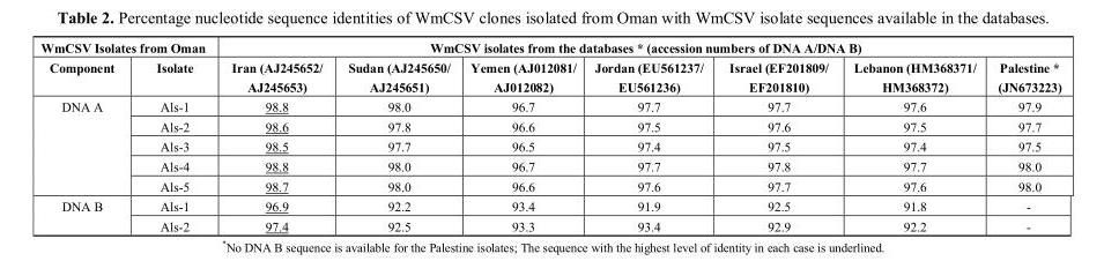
<table><thead><tr><td colspan="2">WmCSV Isolates from Oman</td><td colspan="7">WmCSV isolates from the databases * (accession numbers of DNA A/DNA B)</td></tr><tr><td>Component</td><td>Isolate</td><td>Iran (AJ245652/ AJ245653)</td><td>Sudan (AJ245650/ AJ245651)</td><td>Yemen (AJ012081/ AJ012082)</td><td>Jordan (EU561237/ EU561236)</td><td>Israel (EF201809/ EF201810)</td><td>Lebanon (HM368371/ HM368372)</td><td>Palestine * (JN673223)</td></tr></thead><tbody><tr><td rowspan="5">DNA A</td><td>Als-1</td><td>98.8</td><td>98.0</td><td>96.7</td><td>97.7</td><td>97.7</td><td>97.6</td><td>97.9</td></tr><tr><td>Als-2</td><td>98.6</td><td>97.8</td><td>96.6</td><td>97.5</td><td>97.6</td><td>97.5</td><td>97.7</td></tr><tr><td>Als-3</td><td>98.5</td><td>97.7</td><td>96.5</td><td>97.4</td><td>97.5</td><td>97.4</td><td>97.5</td></tr><tr><td>Als-4</td><td>98.8</td><td>98.0</td><td>96.7</td><td>97.7</td><td>97.8</td><td>97.7</td><td>98.0</td></tr><tr><td>Als-5</td><td>98.7</td><td>98.0</td><td>96.6</td><td>97.6</td><td>97.7</td><td>97.6</td><td>98.0</td></tr><tr><td rowspan="2">DNA B</td><td>Als-1</td><td>96.9</td><td>92.2</td><td>93.4</td><td>91.9</td><td>92.5</td><td>91.8</td><td>-</td></tr><tr><td>Als-2</td><td>97.4</td><td>92.5</td><td>93.3</td><td>93.4</td><td>92.9</td><td>92.2</td><td>-</td></tr></tbody></table>